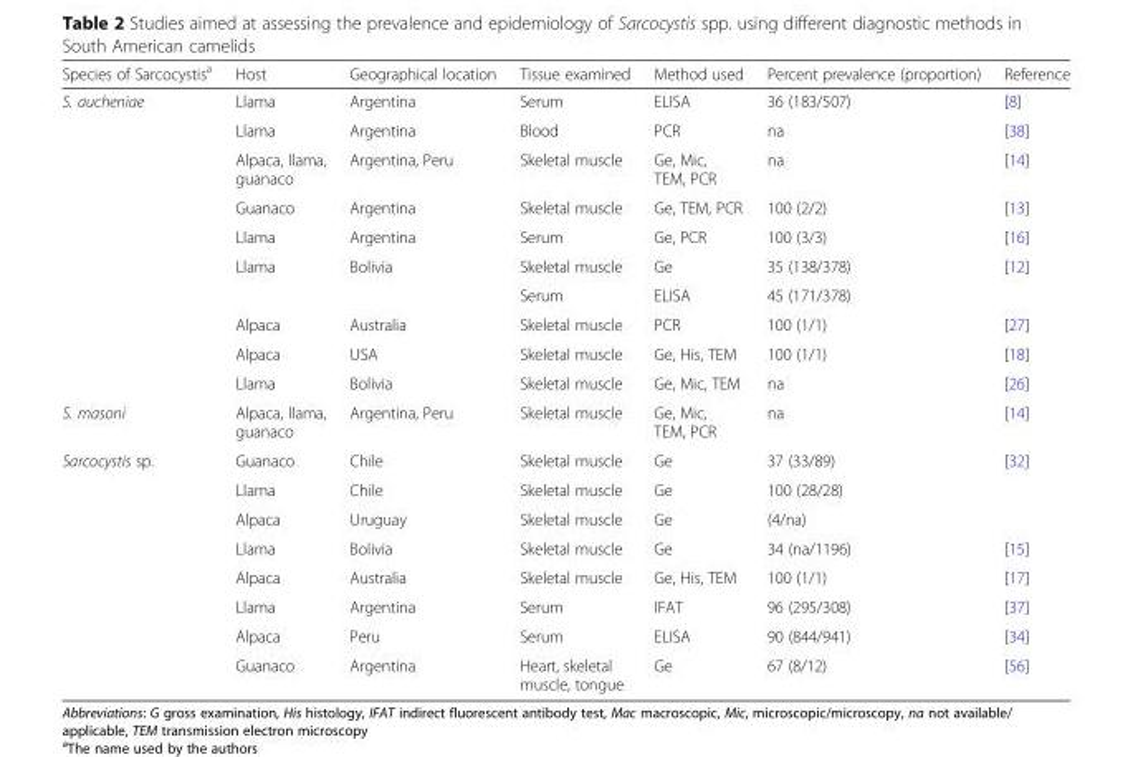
<table><thead><tr><td>Species of Sarcocystis<sup>a</sup></td><td>Host</td><td>Geographical location</td><td>Tissue examined</td><td>Method used</td><td>Percent prevalence (proportion)</td><td>Reference</td></tr></thead><tbody><tr><td rowspan="10">S. aucheniae</td><td>Llama</td><td>Argentina</td><td>Serum</td><td>ELISA</td><td>36 (183/507)</td><td>[8]</td></tr><tr><td>Llama</td><td>Argentina</td><td>Blood</td><td>PCR</td><td>na</td><td>[38]</td></tr><tr><td>Alpaca, llama, guanaco</td><td>Argentina, Peru</td><td>Skeletal muscle</td><td>Ge, Mic, TEM, PCR</td><td>na</td><td>[14]</td></tr><tr><td>Guanaco</td><td>Argentina</td><td>Skeletal muscle</td><td>Ge, TEM, PCR</td><td>100 (2/2)</td><td>[13]</td></tr><tr><td>Llama</td><td>Argentina</td><td>Serum</td><td>Ge, PCR</td><td>100 (3/3)</td><td>[16]</td></tr><tr><td>Llama</td><td>Bolivia</td><td>Skeletal muscle</td><td>Ge</td><td>35 (138/378)</td><td rowspan="2">[12]</td></tr><tr><td></td><td></td><td>Serum</td><td>ELISA</td><td>45 (171/378)</td></tr><tr><td>Alpaca</td><td>Australia</td><td>Skeletal muscle</td><td>PCR</td><td>100 (1/1)</td><td>[27]</td></tr><tr><td>Alpaca</td><td>USA</td><td>Skeletal muscle</td><td>Ge, His, TEM</td><td>100 (1/1)</td><td>[18]</td></tr><tr><td>Llama</td><td>Bolivia</td><td>Skeletal muscle</td><td>Ge, Mic, TEM</td><td>na</td><td>[26]</td></tr><tr><td>S. masoni</td><td>Alpaca, llama, guanaco</td><td>Argentina, Peru</td><td>Skeletal muscle</td><td>Ge, Mic, TEM, PCR</td><td>na</td><td>[14]</td></tr><tr><td rowspan="8">Sarcocystis sp.</td><td>Guanaco</td><td>Chile</td><td>Skeletal muscle</td><td>Ge</td><td>37 (33/89)</td><td rowspan="3">[32]</td></tr><tr><td>Llama</td><td>Chile</td><td>Skeletal muscle</td><td>Ge</td><td>100 (28/28)</td></tr><tr><td>Alpaca</td><td>Uruguay</td><td>Skeletal muscle</td><td>Ge</td><td>(4/na)</td></tr><tr><td>Llama</td><td>Bolivia</td><td>Skeletal muscle</td><td>Ge</td><td>34 (na/1196)</td><td>[15]</td></tr><tr><td>Alpaca</td><td>Australia</td><td>Skeletal muscle</td><td>Ge, His, TEM</td><td>100 (1/1)</td><td>[17]</td></tr><tr><td>Llama</td><td>Argentina</td><td>Serum</td><td>IFAT</td><td>96 (295/308)</td><td>[37]</td></tr><tr><td>Alpaca</td><td>Peru</td><td>Serum</td><td>ELISA</td><td>90 (844/941)</td><td>[34]</td></tr><tr><td>Guanaco</td><td>Argentina</td><td>Heart, skeletal muscle, tongue</td><td>Ge</td><td>67 (8/12)</td><td>[56]</td></tr></tbody></table>